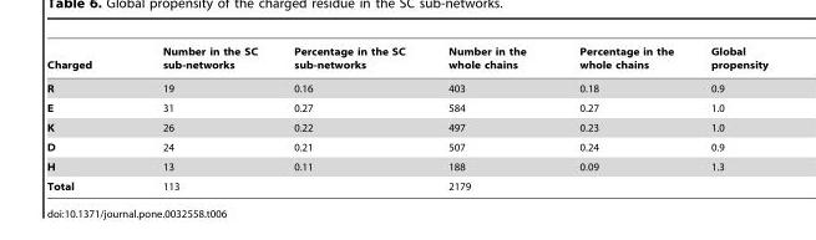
<table><thead><tr><td>Charged</td><td>Number in the SC sub-networks</td><td>Percentage in the SC sub-networks</td><td>Number in the whole chains</td><td>Percentage in the whole chains</td><td>Global propensity</td></tr></thead><tbody><tr><td>R</td><td>19</td><td>0.16</td><td>403</td><td>0.18</td><td>0.9</td></tr><tr><td>E</td><td>31</td><td>0.27</td><td>584</td><td>0.27</td><td>1.0</td></tr><tr><td>K</td><td>26</td><td>0.22</td><td>497</td><td>0.23</td><td>1.0</td></tr><tr><td>D</td><td>24</td><td>0.21</td><td>507</td><td>0.24</td><td>0.9</td></tr><tr><td>H</td><td>13</td><td>0.11</td><td>188</td><td>0.09</td><td>1.3</td></tr><tr><td>Total</td><td>113</td><td></td><td>2179</td><td></td><td></td></tr></tbody></table>